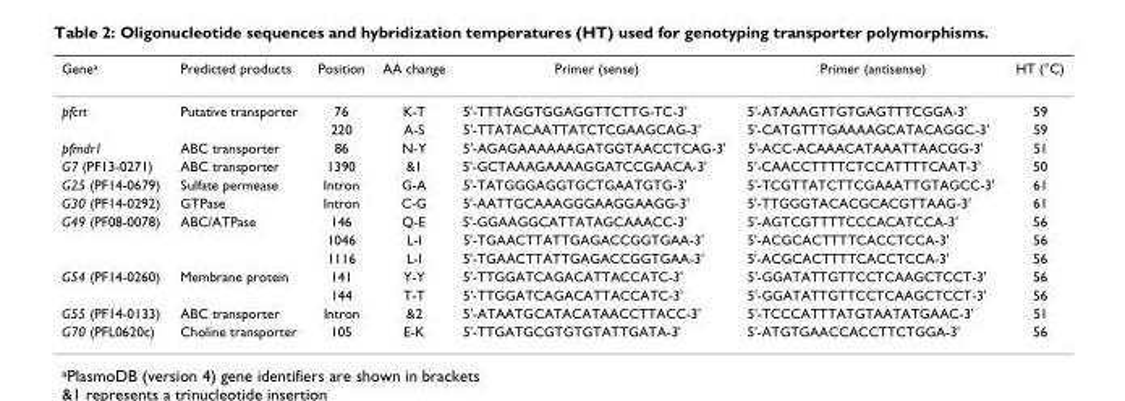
<table><thead><tr><td>Gene<sup>a</sup></td><td>Predicted products</td><td>Position</td><td>AA change</td><td>Primer (sense)</td><td>Primer (antisense)</td><td>HT (°C)</td></tr></thead><tbody><tr><td rowspan="2">pfcrt</td><td>Putative transporter</td><td>76</td><td>K-T</td><td>5&#x27;-TTTAGGTGGAGGTTCTTG-TC-3&#x27;</td><td>5&#x27;-ATAAAGTTGTGAGTTTCGGA-3&#x27;</td><td>59</td></tr><tr><td></td><td>220</td><td>A-S</td><td>5&#x27;-TTATACAATTATCTCGAAGCAG-3&#x27;</td><td>5&#x27;-CATGTTTGAAAAGCATACAGGC-3&#x27;</td><td>59</td></tr><tr><td>pfmdr1</td><td>ABC transporter</td><td>86</td><td>N-Y</td><td>5&#x27;-AGAGAAAAAAGATGGTAACCTCAG-3&#x27;</td><td>5&#x27;-ACC-ACAAACATAAATTAACGG-3&#x27;</td><td>51</td></tr><tr><td>G7 (PF13-0271)</td><td>ABC transporter</td><td>1390</td><td>&amp;1</td><td>5&#x27;-GCTAAAGAAAAGGATCCGAACA-3&#x27;</td><td>5&#x27;-CAACCTTTTCTCCATTTTCAAT-3&#x27;</td><td>50</td></tr><tr><td>G25 (PF14-0679)</td><td>Sulfate permease</td><td>Intron</td><td>G-A</td><td>5&#x27;-TATGGGAGGTGCTGAATGTG-3&#x27;</td><td>5&#x27;-TCGTTATCTTCGAAATTGTAGCC-3&#x27;</td><td>61</td></tr><tr><td>G30 (PF14-0292)</td><td>GTPase</td><td>Intron</td><td>C-G</td><td>5&#x27;-AATTGCAAAGGGAAGGAAGG-3&#x27;</td><td>5&#x27;-TTGGGTACACGCACGTTAAG-3&#x27;</td><td>61</td></tr><tr><td rowspan="3">G49 (PF08-0078)</td><td>ABC/ATPase</td><td>146</td><td>Q-E</td><td>5&#x27;-GGAAGGCATTATAGCAAACC-3&#x27;</td><td>5&#x27;-AGTCGTTTTCCCACATCCA-3&#x27;</td><td>56</td></tr><tr><td></td><td>1046</td><td>L-I</td><td>5&#x27;-TGAACTTATTGAGACCGGTGAA-3&#x27;</td><td>5&#x27;-ACGCACTTTTCACCTCCA-3&#x27;</td><td>56</td></tr><tr><td></td><td>1116</td><td>L-I</td><td>5&#x27;-TGAACTTATTGAGACCGGTGAA-3&#x27;</td><td>5&#x27;-ACGCACTTTTCACCTCCA-3&#x27;</td><td>56</td></tr><tr><td rowspan="2">G54 (PF14-0260)</td><td>Membrane protein</td><td>141</td><td>Y-Y</td><td>5&#x27;-TTGGATCAGACATTACCATC-3&#x27;</td><td>5&#x27;-GGATATTGTTCCTCAAGCTCCT-3&#x27;</td><td>56</td></tr><tr><td></td><td>144</td><td>T-T</td><td>5&#x27;-TTGGATCAGACATTACCATC-3&#x27;</td><td>5&#x27;-GGATATTGTTCCTCAAGCTCCT-3&#x27;</td><td>56</td></tr><tr><td>G55 (PF14-0133)</td><td>ABC transporter</td><td>Intron</td><td>&amp;2</td><td>5&#x27;-ATAATGCATACATAACCTTACC-3&#x27;</td><td>5&#x27;-TCCCATTTATGTAATATGAAC-3&#x27;</td><td>51</td></tr><tr><td>G70 (PFL0620c)</td><td>Choline transporter</td><td>105</td><td>E-K</td><td>5&#x27;-TTGATGCGTGTGTATTGATA-3&#x27;</td><td>5&#x27;-ATGTGAACCACCTTCTGGA-3&#x27;</td><td>56</td></tr></tbody></table>